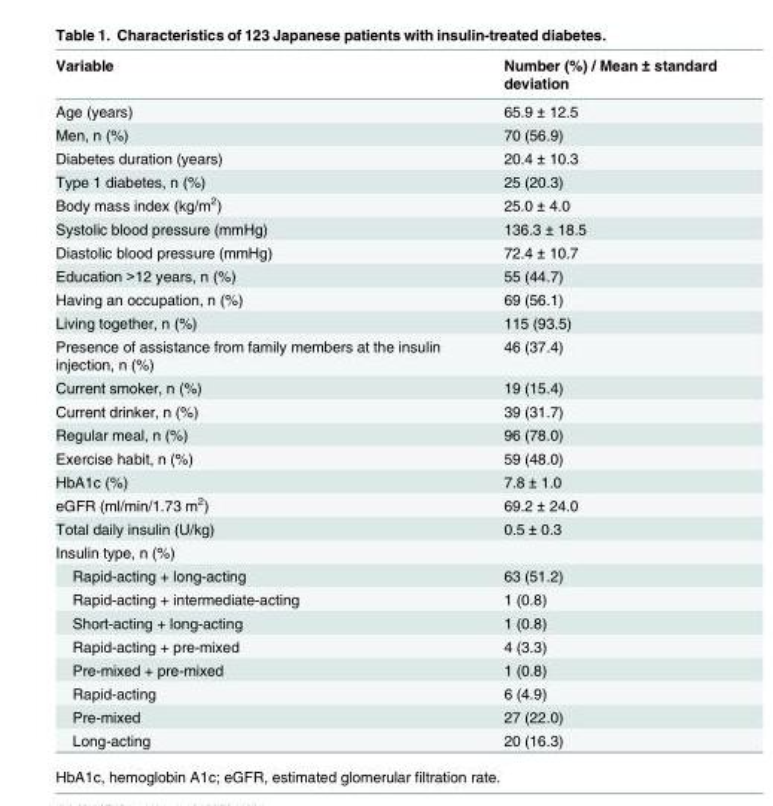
<table><thead><tr><td>Variable</td><td>Number (%) / Mean ± standard deviation</td></tr></thead><tbody><tr><td>Age (years)</td><td>65.9 ± 12.5</td></tr><tr><td>Men, n (%)</td><td>70 (56.9)</td></tr><tr><td>Diabetes duration (years)</td><td>20.4 ± 10.3</td></tr><tr><td>Type 1 diabetes, n (%)</td><td>25 (20.3)</td></tr><tr><td>Body mass index (kg/m<sup>2</sup>)</td><td>25.0 ± 4.0</td></tr><tr><td>Systolic blood pressure (mmHg)</td><td>136.3 ± 18.5</td></tr><tr><td>Diastolic blood pressure (mmHg)</td><td>72.4 ± 10.7</td></tr><tr><td>Education &gt;12 years, n (%)</td><td>55 (44.7)</td></tr><tr><td>Having an occupation, n (%)</td><td>69 (56.1)</td></tr><tr><td>Living together, n (%)</td><td>115 (93.5)</td></tr><tr><td>Presence of assistance from family members at the insulin injection, n (%)</td><td>46 (37.4)</td></tr><tr><td>Current smoker, n (%)</td><td>19 (15.4)</td></tr><tr><td>Current drinker, n (%)</td><td>39 (31.7)</td></tr><tr><td>Regular meal, n (%)</td><td>96 (78.0)</td></tr><tr><td>Exercise habit, n (%)</td><td>59 (48.0)</td></tr><tr><td>HbA1c (%)</td><td>7.8 ± 1.0</td></tr><tr><td>eGFR (ml/min/1.73 m<sup>2</sup>)</td><td>69.2 ± 24.0</td></tr><tr><td>Total daily insulin (U/kg)</td><td>0.5 ± 0.3</td></tr><tr><td colspan="2">Insulin type, n (%)</td></tr><tr><td>Rapid-acting + long-acting</td><td>63 (51.2)</td></tr><tr><td>Rapid-acting + intermediate-acting</td><td>1 (0.8)</td></tr><tr><td>Short-acting + long-acting</td><td>1 (0.8)</td></tr><tr><td>Rapid-acting + pre-mixed</td><td>4 (3.3)</td></tr><tr><td>Pre-mixed + pre-mixed</td><td>1 (0.8)</td></tr><tr><td>Rapid-acting</td><td>6 (4.9)</td></tr><tr><td>Pre-mixed</td><td>27 (22.0)</td></tr><tr><td>Long-acting</td><td>20 (16.3)</td></tr></tbody></table>